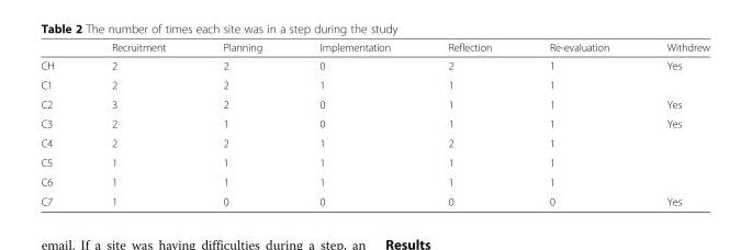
<table><thead><tr><td></td><td>Recruitment</td><td>Planning</td><td>Implementation</td><td>Reflection</td><td>Re-evaluation</td><td>Withdrew</td></tr></thead><tbody><tr><td>CH</td><td>2</td><td>2</td><td>0</td><td>2</td><td>1</td><td>Yes</td></tr><tr><td>C1</td><td>2</td><td>2</td><td>1</td><td>1</td><td>1</td><td></td></tr><tr><td>C2</td><td>3</td><td>2</td><td>0</td><td>1</td><td>1</td><td>Yes</td></tr><tr><td>C3</td><td>2</td><td>1</td><td>0</td><td>1</td><td>1</td><td>Yes</td></tr><tr><td>C4</td><td>2</td><td>2</td><td>1</td><td>2</td><td>1</td><td></td></tr><tr><td>C5</td><td>1</td><td>1</td><td>1</td><td>1</td><td>1</td><td></td></tr><tr><td>C6</td><td>1</td><td>1</td><td>1</td><td>1</td><td>1</td><td></td></tr><tr><td>C7</td><td>1</td><td>0</td><td>0</td><td>0</td><td>0</td><td>Yes</td></tr></tbody></table>